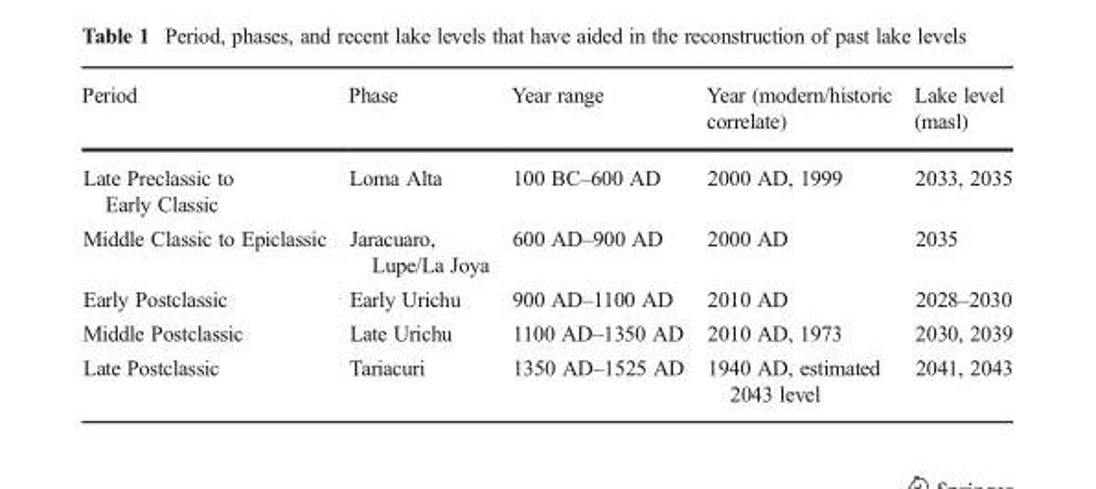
<table><thead><tr><td>Period</td><td>Phase</td><td>Year range</td><td>Year (modern/historic correlate)</td><td>Lake level (masl)</td></tr></thead><tbody><tr><td>Late Preclassic to Early Classic</td><td>Loma Alta</td><td>100 BC–600 AD</td><td>2000 AD, 1999</td><td>2033, 2035</td></tr><tr><td>Middle Classic to Epiclassic</td><td>Jaracuaro, Lupe/La Joya</td><td>600 AD–900 AD</td><td>2000 AD</td><td>2035</td></tr><tr><td>Early Postclassic</td><td>Early Urichu</td><td>900 AD–1100 AD</td><td>2010 AD</td><td>2028–2030</td></tr><tr><td>Middle Postclassic</td><td>Late Urichu</td><td>1100 AD–1350 AD</td><td>2010 AD, 1973</td><td>2030, 2039</td></tr><tr><td>Late Postclassic</td><td>Tariacuri</td><td>1350 AD–1525 AD</td><td>1940 AD, estimated 2043 level</td><td>2041, 2043</td></tr></tbody></table>